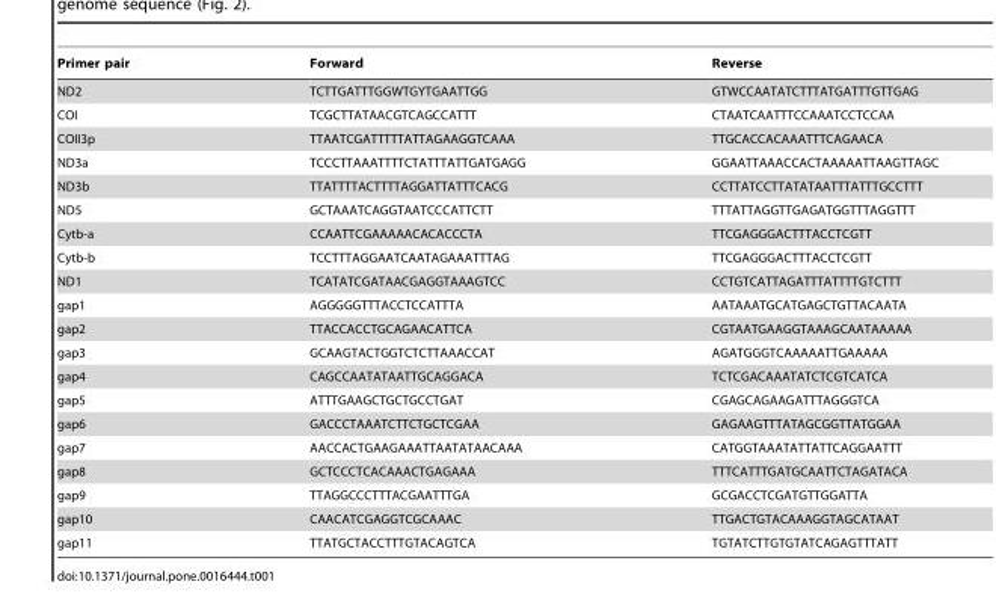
<table><thead><tr><td>Primer pair</td><td>Forward</td><td>Reverse</td></tr></thead><tbody><tr><td>ND2</td><td>TCTTGATTTGGWTGYTGAATTGG</td><td>GTWCCAATATCTTTATGATTTGTTGAG</td></tr><tr><td>COI</td><td>TCGCTTATAACGTCAGCCATTT</td><td>CTAATCAATTTCCAAATCCTCCAA</td></tr><tr><td>COII3p</td><td>TTAATCGATTTTTATTAGAAGGTCAAA</td><td>TTGCACCACAAATTTCAGAACA</td></tr><tr><td>ND3a</td><td>TCCCTTAAATTTTCTATTTATTGATGAGG</td><td>GGAATTAAACCACTAAAAATTAAGTTAGC</td></tr><tr><td>ND3b</td><td>TTATTTTACTTTTAGGATTATTTCACG</td><td>CCTTATCCTTATATAATTTATTTGCCTTT</td></tr><tr><td>ND5</td><td>GCTAAATCAGGTAATCCCATTCTT</td><td>TTTATTAGGTTGAGATGGTTTAGGTTT</td></tr><tr><td>Cytb-a</td><td>CCAATTCGAAAAACACACCCTA</td><td>TTCGAGGGACTTTACCTCGTT</td></tr><tr><td>Cytb-b</td><td>TCCTTTAGGAATCAATAGAAATTTAG</td><td>TTCGAGGGACTTTACCTCGTT</td></tr><tr><td>ND1</td><td>TCATATCGATAACGAGGTAAAGTCC</td><td>CCTGTCATTAGATTTATTTTGTCTTT</td></tr><tr><td>gap1</td><td>AGGGGGTTTACCTCCATTTA</td><td>AATAAATGCATGAGCTGTTACAATA</td></tr><tr><td>gap2</td><td>TTACCACCTGCAGAACATTCA</td><td>CGTAATGAAGGTAAAGCAATAAAAA</td></tr><tr><td>gap3</td><td>GCAAGTACTGGTCTCTTAAACCAT</td><td>AGATGGGTCAAAAATTGAAAAA</td></tr><tr><td>gap4</td><td>CAGCCAATATAATTGCAGGACA</td><td>TCTCGACAAATATCTCGTCATCA</td></tr><tr><td>gap5</td><td>ATTTGAAGCTGCTGCCTGAT</td><td>CGAGCAGAAGATTTAGGGTCA</td></tr><tr><td>gap6</td><td>GACCCTAAATCTTCTGCTCGAA</td><td>GAGAAGTTTATAGCGGTTATGGAA</td></tr><tr><td>gap7</td><td>AACCACTGAAGAAATTAATATAACAAA</td><td>CATGGTAAATATTATTCAGGAATTT</td></tr><tr><td>gap8</td><td>GCTCCCTCACAAACTGAGAAA</td><td>TTTCATTTGATGCAATTCTAGATACA</td></tr><tr><td>gap9</td><td>TTAGGCCCTTTACGAATTTGA</td><td>GCGACCTCGATGTTGGATTA</td></tr><tr><td>gap10</td><td>CAACATCGAGGTCGCAAAC</td><td>TTGACTGTACAAAGGTAGCATAAT</td></tr><tr><td>gap11</td><td>TTATGCTACCTTTGTACAGTCA</td><td>TGTATCTTGTGTATCAGAGTTTATT</td></tr></tbody></table>